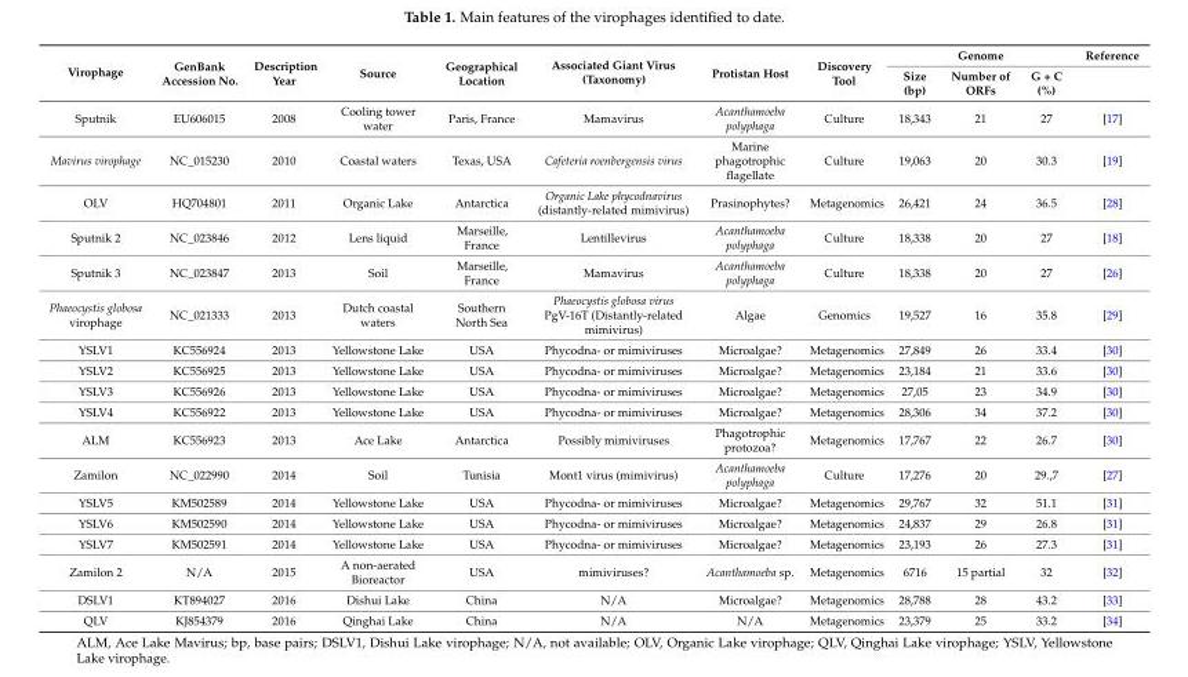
<table><thead><tr><td rowspan="2">Virophage</td><td rowspan="2">GenBank Accession No.</td><td rowspan="2">Description Year</td><td rowspan="2">Source</td><td rowspan="2">Geographical Location</td><td rowspan="2">Associated Giant Virus (Taxonomy)</td><td rowspan="2">Protistan Host</td><td rowspan="2">Discovery Tool</td><td rowspan="2">Size (bp)</td><td rowspan="2">Genome Number of ORFs</td><td rowspan="2">G + C (%)</td><td rowspan="2">Reference</td></tr><tr></tr></thead><tbody><tr><td>Sputnik</td><td>EU606015</td><td>2008</td><td>Cooling tower water</td><td>Paris, France</td><td>Mamavirus</td><td>Acanthamoeba polyphaga</td><td>Culture</td><td>18,343</td><td>21</td><td>27</td><td>[17]</td></tr><tr><td>Mavirus virophage</td><td>NC_015230</td><td>2010</td><td>Coastal waters</td><td>Texas, USA</td><td>Cafeteria roenbergensis virus</td><td>Marine phagotrophic flagellate</td><td>Culture</td><td>19,063</td><td>20</td><td>30.3</td><td>[19]</td></tr><tr><td>OLV</td><td>HQ704801</td><td>2011</td><td>Organic Lake</td><td>Antarctica</td><td>Organic Lake phycodnavirus (distantly-related mimivirus)</td><td>Prasinophytes?</td><td>Metagenomics</td><td>26,421</td><td>24</td><td>36.5</td><td>[28]</td></tr><tr><td>Sputnik 2</td><td>NC_023846</td><td>2012</td><td>Lens liquid</td><td>Marseille, France</td><td>Lentillevirus</td><td>Acanthamoeba polyphaga</td><td>Culture</td><td>18,338</td><td>20</td><td>27</td><td>[18]</td></tr><tr><td>Sputnik 3</td><td>NC_023847</td><td>2013</td><td>Soil</td><td>Marseille, France</td><td>Mamavirus</td><td>Acanthamoeba polyphaga</td><td>Culture</td><td>18,338</td><td>20</td><td>27</td><td>[26]</td></tr><tr><td>Phaeocystis globosa virophage</td><td>NC_021333</td><td>2013</td><td>Dutch coastal waters</td><td>Southern North Sea</td><td>Phaeocystis globosa virus PgV-16T (Distantly-related mimivirus)</td><td>Algae</td><td>Genomics</td><td>19,527</td><td>16</td><td>35.8</td><td>[29]</td></tr><tr><td>YSLV1</td><td>KC556924</td><td>2013</td><td>Yellowstone Lake</td><td>USA</td><td>Phycodna- or mimiviruses</td><td>Microalgae?</td><td>Metagenomics</td><td>27,849</td><td>26</td><td>33.4</td><td>[30]</td></tr><tr><td>YSLV2</td><td>KC556925</td><td>2013</td><td>Yellowstone Lake</td><td>USA</td><td>Phycodna- or mimiviruses</td><td>Microalgae?</td><td>Metagenomics</td><td>23,184</td><td>21</td><td>33.6</td><td>[30]</td></tr><tr><td>YSLV3</td><td>KC556926</td><td>2013</td><td>Yellowstone Lake</td><td>USA</td><td>Phycodna- or mimiviruses</td><td>Microalgae?</td><td>Metagenomics</td><td>27,05</td><td>23</td><td>34.9</td><td>[30]</td></tr><tr><td>YSLV4</td><td>KC556922</td><td>2013</td><td>Yellowstone Lake</td><td>USA</td><td>Phycodna- or mimiviruses</td><td>Microalgae?</td><td>Metagenomics</td><td>28,306</td><td>34</td><td>37.2</td><td>[30]</td></tr><tr><td>ALM</td><td>KC556923</td><td>2013</td><td>Ace Lake</td><td>Antarctica</td><td>Possibly mimiviruses</td><td>Phagotrophic protozoa?</td><td>Metagenomics</td><td>17,767</td><td>22</td><td>26.7</td><td>[30]</td></tr><tr><td>Zamilon</td><td>NC_022990</td><td>2014</td><td>Soil</td><td>Tunisia</td><td>Mont1 virus (mimivirus)</td><td>Acanthamoeba polyphaga</td><td>Culture</td><td>17,276</td><td>20</td><td>29.,7</td><td>[27]</td></tr><tr><td>YSLV5</td><td>KM502589</td><td>2014</td><td>Yellowstone Lake</td><td>USA</td><td>Phycodna- or mimiviruses</td><td>Microalgae?</td><td>Metagenomics</td><td>29,767</td><td>32</td><td>51.1</td><td>[31]</td></tr><tr><td>YSLV6</td><td>KM502590</td><td>2014</td><td>Yellowstone Lake</td><td>USA</td><td>Phycodna- or mimiviruses</td><td>Microalgae?</td><td>Metagenomics</td><td>24,837</td><td>29</td><td>26.8</td><td>[31]</td></tr><tr><td>YSLV7</td><td>KM502591</td><td>2014</td><td>Yellowstone Lake</td><td>USA</td><td>Phycodna- or mimiviruses</td><td>Microalgae?</td><td>Metagenomics</td><td>23,193</td><td>26</td><td>27.3</td><td>[31]</td></tr><tr><td>Zamilon 2</td><td>N/A</td><td>2015</td><td>A non-aerated Bioreactor</td><td>USA</td><td>mimiviruses?</td><td>Acanthamoeba sp.</td><td>Metagenomics</td><td>6716</td><td>15 partial</td><td>32</td><td>[32]</td></tr><tr><td>DSLV1</td><td>KT894027</td><td>2016</td><td>Dishui Lake</td><td>China</td><td>N/A</td><td>Microalgae?</td><td>Metagenomics</td><td>28,788</td><td>28</td><td>43.2</td><td>[33]</td></tr><tr><td>QLV</td><td>KJ854379</td><td>2016</td><td>Qinghai Lake</td><td>China</td><td>N/A</td><td>N/A</td><td>Metagenomics</td><td>23,379</td><td>25</td><td>33.2</td><td>[34]</td></tr></tbody></table>